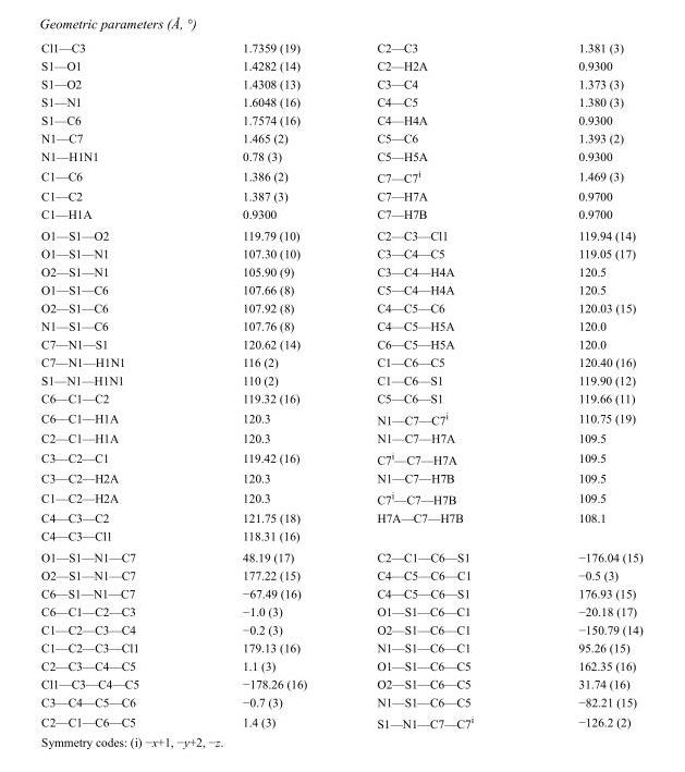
<table><tbody><tr><td>Cl1—C3</td><td>1.7359 (19)</td><td>C2—C3</td><td>1.381 (3)</td></tr><tr><td>S1—O1</td><td>1.4282 (14)</td><td>C2—H2A</td><td>0.9300</td></tr><tr><td>S1—O2</td><td>1.4308 (13)</td><td>C3—C4</td><td>1.373 (3)</td></tr><tr><td>S1—N1</td><td>1.6048 (16)</td><td>C4—C5</td><td>1.380 (3)</td></tr><tr><td>S1—C6</td><td>1.7574 (16)</td><td>C4—H4A</td><td>0.9300</td></tr><tr><td>N1—C7</td><td>1.465 (2)</td><td>C5—C6</td><td>1.393 (2)</td></tr><tr><td>N1—H1N1</td><td>0.78 (3)</td><td>C5—H5A</td><td>0.9300</td></tr><tr><td>C1—C6</td><td>1.386 (2)</td><td>C7—C7<sup>i</sup></td><td>1.469 (3)</td></tr><tr><td>C1—C2</td><td>1.387 (3)</td><td>C7—H7A</td><td>0.9700</td></tr><tr><td>C1—H1A</td><td>0.9300</td><td>C7—H7B</td><td>0.9700</td></tr><tr><td>O1—S1—O2</td><td>119.79 (10)</td><td>C2—C3—Cl1</td><td>119.94 (14)</td></tr><tr><td>O1—S1—N1</td><td>107.30 (10)</td><td>C3—C4—C5</td><td>119.05 (17)</td></tr><tr><td>O2—S1—N1</td><td>105.90 (9)</td><td>C3—C4—H4A</td><td>120.5</td></tr><tr><td>O1—S1—C6</td><td>107.66 (8)</td><td>C5—C4—H4A</td><td>120.5</td></tr><tr><td>O2—S1—C6</td><td>107.92 (8)</td><td>C4—C5—C6</td><td>120.03 (15)</td></tr><tr><td>N1—S1—C6</td><td>107.76 (8)</td><td>C4—C5—H5A</td><td>120.0</td></tr><tr><td>C7—N1—S1</td><td>120.62 (14)</td><td>C6—C5—H5A</td><td>120.0</td></tr><tr><td>C7—N1—H1N1</td><td>116 (2)</td><td>C1—C6—C5</td><td>120.40 (16)</td></tr><tr><td>S1—N1—H1N1</td><td>110 (2)</td><td>C1—C6—S1</td><td>119.90 (12)</td></tr><tr><td>C6—C1—C2</td><td>119.32 (16)</td><td>C5—C6—S1</td><td>119.66 (11)</td></tr><tr><td>C6—C1—H1A</td><td>120.3</td><td>N1—C7—C7<sup>i</sup></td><td>110.75 (19)</td></tr><tr><td>C2—C1—H1A</td><td>120.3</td><td>N1—C7—H7A</td><td>109.5</td></tr><tr><td>C3—C2—C1</td><td>119.42 (16)</td><td>C7<sup>i</sup>—C7—H7A</td><td>109.5</td></tr><tr><td>C3—C2—H2A</td><td>120.3</td><td>N1—C7—H7B</td><td>109.5</td></tr><tr><td>C1—C2—H2A</td><td>120.3</td><td>C7<sup>i</sup>—C7—H7B</td><td>109.5</td></tr><tr><td>C4—C3—C2</td><td>121.75 (18)</td><td>H7A—C7—H7B</td><td>108.1</td></tr><tr><td>C4—C3—Cl1</td><td>118.31 (16)</td><td></td><td></td></tr><tr><td>O1—S1—N1—C7</td><td>48.19 (17)</td><td>C2—C1—C6—S1</td><td>−176.04 (15)</td></tr><tr><td>O2—S1—N1—C7</td><td>177.22 (15)</td><td>C4—C5—C6—C1</td><td>−0.5 (3)</td></tr><tr><td>C6—S1—N1—C7</td><td>−67.49 (16)</td><td>C4—C5—C6—S1</td><td>176.93 (15)</td></tr><tr><td>C6—C1—C2—C3</td><td>−1.0 (3)</td><td>O1—S1—C6—C1</td><td>−20.18 (17)</td></tr><tr><td>C1—C2—C3—C4</td><td>−0.2 (3)</td><td>O2—S1—C6—C1</td><td>−150.79 (14)</td></tr><tr><td>C1—C2—C3—Cl1</td><td>179.13 (16)</td><td>N1—S1—C6—C1</td><td>95.26 (15)</td></tr><tr><td>C2—C3—C4—C5</td><td>1.1 (3)</td><td>O1—S1—C6—C5</td><td>162.35 (16)</td></tr><tr><td>Cl1—C3—C4—C5</td><td>−178.26 (16)</td><td>O2—S1—C6—C5</td><td>31.74 (16)</td></tr><tr><td>C3—C4—C5—C6</td><td>−0.7 (3)</td><td>N1—S1—C6—C5</td><td>−82.21 (15)</td></tr><tr><td>C2—C1—C6—C5</td><td>1.4 (3)</td><td>S1—N1—C7—C7<sup>i</sup></td><td>−126.2 (2)</td></tr></tbody></table>